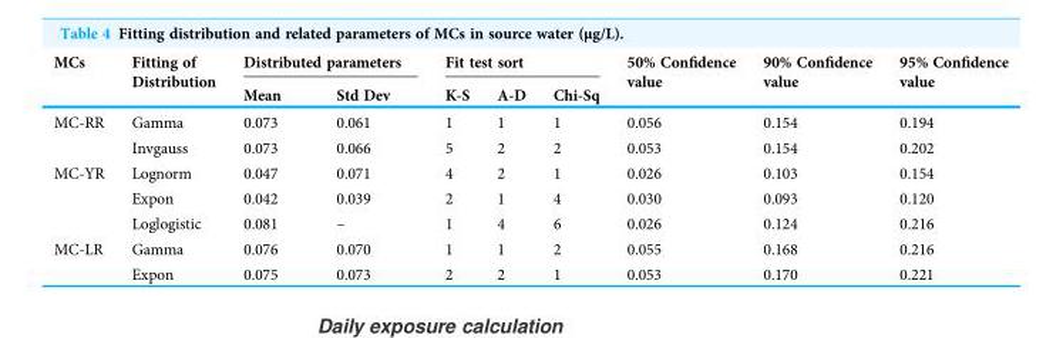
<table><thead><tr><td rowspan="2">MCs</td><td rowspan="2">Fitting of Distribution</td><td colspan="2">Distributed parameters</td><td colspan="3">Fit test sort</td><td rowspan="2">50% Confidence value</td><td rowspan="2">90% Confidence value</td><td rowspan="2">95% Confidence value</td></tr><tr><td>Mean</td><td>Std Dev</td><td>K-S</td><td>A-D</td><td>Chi-Sq</td></tr></thead><tbody><tr><td rowspan="2">MC-RR</td><td>Gamma</td><td>0.073</td><td>0.061</td><td>1</td><td>1</td><td>1</td><td>0.056</td><td>0.154</td><td>0.194</td></tr><tr><td>Invgauss</td><td>0.073</td><td>0.066</td><td>5</td><td>2</td><td>2</td><td>0.053</td><td>0.154</td><td>0.202</td></tr><tr><td rowspan="3">MC-YR</td><td>Lognorm</td><td>0.047</td><td>0.071</td><td>4</td><td>2</td><td>1</td><td>0.026</td><td>0.103</td><td>0.154</td></tr><tr><td>Expon</td><td>0.042</td><td>0.039</td><td>2</td><td>1</td><td>4</td><td>0.030</td><td>0.093</td><td>0.120</td></tr><tr><td>Loglogistic</td><td>0.081</td><td>–</td><td>1</td><td>4</td><td>6</td><td>0.026</td><td>0.124</td><td>0.216</td></tr><tr><td rowspan="2">MC-LR</td><td>Gamma</td><td>0.076</td><td>0.070</td><td>1</td><td>1</td><td>2</td><td>0.055</td><td>0.168</td><td>0.216</td></tr><tr><td>Expon</td><td>0.075</td><td>0.073</td><td>2</td><td>2</td><td>1</td><td>0.053</td><td>0.170</td><td>0.221</td></tr></tbody></table>